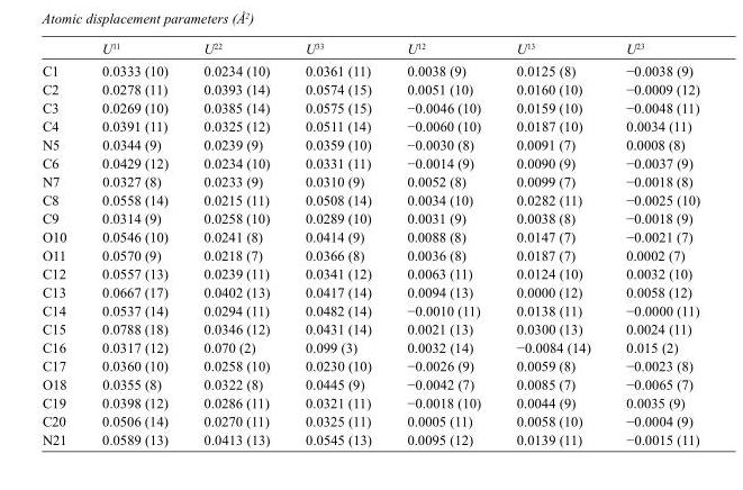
<table><thead><tr><td></td><td>U<sup>11</sup></td><td>U<sup>22</sup></td><td>U<sup>33</sup></td><td>U<sup>12</sup></td><td>U<sup>13</sup></td><td>U<sup>23</sup></td></tr></thead><tbody><tr><td>C1</td><td>0.0333 (10)</td><td>0.0234 (10)</td><td>0.0361 (11)</td><td>0.0038 (9)</td><td>0.0125 (8)</td><td>−0.0038 (9)</td></tr><tr><td>C2</td><td>0.0278 (11)</td><td>0.0393 (14)</td><td>0.0574 (15)</td><td>0.0051 (10)</td><td>0.0160 (10)</td><td>−0.0009 (12)</td></tr><tr><td>C3</td><td>0.0269 (10)</td><td>0.0385 (14)</td><td>0.0575 (15)</td><td>−0.0046 (10)</td><td>0.0159 (10)</td><td>−0.0048 (11)</td></tr><tr><td>C4</td><td>0.0391 (11)</td><td>0.0325 (12)</td><td>0.0511 (14)</td><td>−0.0060 (10)</td><td>0.0187 (10)</td><td>0.0034 (11)</td></tr><tr><td>N5</td><td>0.0344 (9)</td><td>0.0239 (9)</td><td>0.0359 (10)</td><td>−0.0030 (8)</td><td>0.0091 (7)</td><td>0.0008 (8)</td></tr><tr><td>C6</td><td>0.0429 (12)</td><td>0.0234 (10)</td><td>0.0331 (11)</td><td>−0.0014 (9)</td><td>0.0090 (9)</td><td>−0.0037 (9)</td></tr><tr><td>N7</td><td>0.0327 (8)</td><td>0.0233 (9)</td><td>0.0310 (9)</td><td>0.0052 (8)</td><td>0.0099 (7)</td><td>−0.0018 (8)</td></tr><tr><td>C8</td><td>0.0558 (14)</td><td>0.0215 (11)</td><td>0.0508 (14)</td><td>0.0034 (10)</td><td>0.0282 (11)</td><td>−0.0025 (10)</td></tr><tr><td>C9</td><td>0.0314 (9)</td><td>0.0258 (10)</td><td>0.0289 (10)</td><td>0.0031 (9)</td><td>0.0038 (8)</td><td>−0.0018 (9)</td></tr><tr><td>O10</td><td>0.0546 (10)</td><td>0.0241 (8)</td><td>0.0414 (9)</td><td>0.0088 (8)</td><td>0.0147 (7)</td><td>−0.0021 (7)</td></tr><tr><td>O11</td><td>0.0570 (9)</td><td>0.0218 (7)</td><td>0.0366 (8)</td><td>0.0036 (8)</td><td>0.0187 (7)</td><td>0.0002 (7)</td></tr><tr><td>C12</td><td>0.0557 (13)</td><td>0.0239 (11)</td><td>0.0341 (12)</td><td>0.0063 (11)</td><td>0.0124 (10)</td><td>0.0032 (10)</td></tr><tr><td>C13</td><td>0.0667 (17)</td><td>0.0402 (13)</td><td>0.0417 (14)</td><td>0.0094 (13)</td><td>0.0000 (12)</td><td>0.0058 (12)</td></tr><tr><td>C14</td><td>0.0537 (14)</td><td>0.0294 (11)</td><td>0.0482 (14)</td><td>−0.0010 (11)</td><td>0.0138 (11)</td><td>−0.0000 (11)</td></tr><tr><td>C15</td><td>0.0788 (18)</td><td>0.0346 (12)</td><td>0.0431 (14)</td><td>0.0021 (13)</td><td>0.0300 (13)</td><td>0.0024 (11)</td></tr><tr><td>C16</td><td>0.0317 (12)</td><td>0.070 (2)</td><td>0.099 (3)</td><td>0.0032 (14)</td><td>−0.0084 (14)</td><td>0.015 (2)</td></tr><tr><td>C17</td><td>0.0360 (10)</td><td>0.0258 (10)</td><td>0.0230 (10)</td><td>−0.0026 (9)</td><td>0.0059 (8)</td><td>−0.0023 (8)</td></tr><tr><td>O18</td><td>0.0355 (8)</td><td>0.0322 (8)</td><td>0.0445 (9)</td><td>−0.0042 (7)</td><td>0.0085 (7)</td><td>−0.0065 (7)</td></tr><tr><td>C19</td><td>0.0398 (12)</td><td>0.0286 (11)</td><td>0.0321 (11)</td><td>−0.0018 (10)</td><td>0.0044 (9)</td><td>0.0035 (9)</td></tr><tr><td>C20</td><td>0.0506 (14)</td><td>0.0270 (11)</td><td>0.0325 (11)</td><td>0.0005 (11)</td><td>0.0058 (10)</td><td>−0.0004 (9)</td></tr><tr><td>N21</td><td>0.0589 (13)</td><td>0.0413 (13)</td><td>0.0545 (13)</td><td>0.0095 (12)</td><td>0.0139 (11)</td><td>−0.0015 (11)</td></tr></tbody></table>